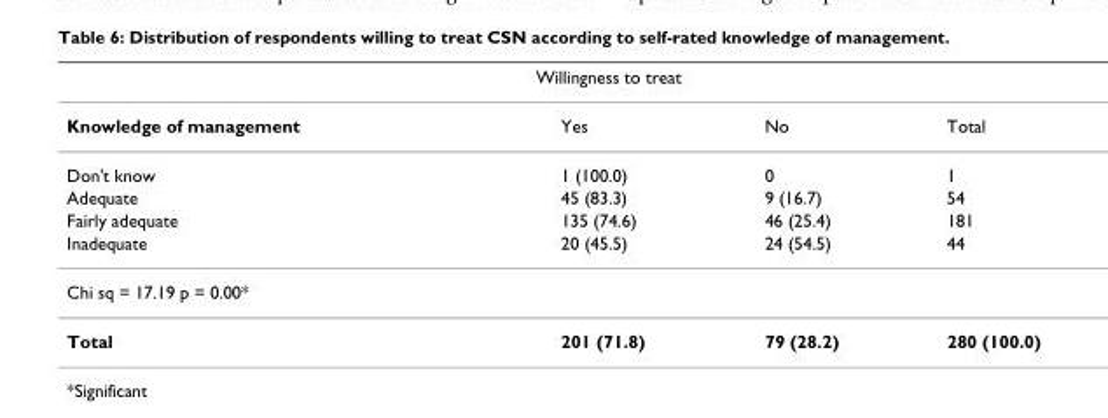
<table><thead><tr><td colspan="4">Willingness to treat</td></tr><tr><td>Knowledge of management</td><td>Yes</td><td>No</td><td>Total</td></tr></thead><tbody><tr><td>Don&#x27;t know</td><td>1 (100.0)</td><td>0</td><td>1</td></tr><tr><td>Adequate</td><td>45 (83.3)</td><td>9 (16.7)</td><td>54</td></tr><tr><td>Fairly adequate</td><td>135 (74.6)</td><td>46 (25.4)</td><td>181</td></tr><tr><td>Inadequate</td><td>20 (45.5)</td><td>24 (54.5)</td><td>44</td></tr><tr><td colspan="4">Chi sq = 17.19 p = 0.00*</td></tr><tr><td>Total</td><td>201 (71.8)</td><td>79 (28.2)</td><td>280 (100.0)</td></tr></tbody></table>